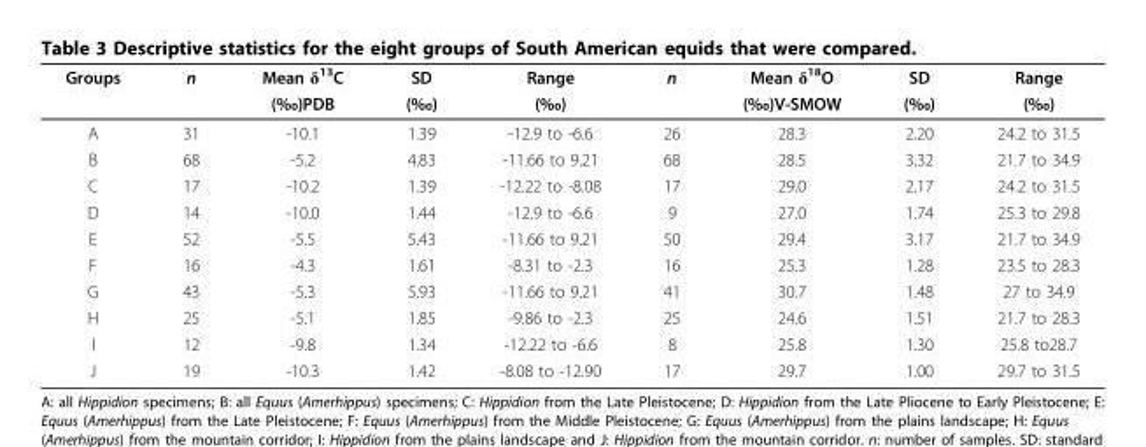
<table><thead><tr><td rowspan="2">Groups</td><td rowspan="2">n</td><td rowspan="2">Mean δ<sup>13</sup>C (‰)PDB</td><td rowspan="2">SD (‰)</td><td rowspan="2">Range (‰)</td><td rowspan="2">n</td><td rowspan="2">Mean δ<sup>18</sup>O (‰)V-SMOW</td><td rowspan="2">SD (‰)</td><td rowspan="2">Range (‰)</td></tr><tr></tr></thead><tbody><tr><td>A</td><td>31</td><td>-10.1</td><td>1.39</td><td>-12.9 to -6.6</td><td>26</td><td>28.3</td><td>2.20</td><td>24.2 to 31.5</td></tr><tr><td>B</td><td>68</td><td>-5.2</td><td>4.83</td><td>-11.66 to 9.21</td><td>68</td><td>28.5</td><td>3.32</td><td>21.7 to 34.9</td></tr><tr><td>C</td><td>17</td><td>-10.2</td><td>1.39</td><td>-12.22 to -8.08</td><td>17</td><td>29.0</td><td>2.17</td><td>24.2 to 31.5</td></tr><tr><td>D</td><td>14</td><td>-10.0</td><td>1.44</td><td>-12.9 to -6.6</td><td>9</td><td>27.0</td><td>1.74</td><td>25.3 to 29.8</td></tr><tr><td>E</td><td>52</td><td>-5.5</td><td>5.43</td><td>-11.66 to 9.21</td><td>50</td><td>29.4</td><td>3.17</td><td>21.7 to 34.9</td></tr><tr><td>F</td><td>16</td><td>-4.3</td><td>1.61</td><td>-8.31 to -2.3</td><td>16</td><td>25.3</td><td>1.28</td><td>23.5 to 28.3</td></tr><tr><td>G</td><td>43</td><td>-5.3</td><td>5.93</td><td>-11.66 to 9.21</td><td>41</td><td>30.7</td><td>1.48</td><td>27 to 34.9</td></tr><tr><td>H</td><td>25</td><td>-5.1</td><td>1.85</td><td>-9.86 to -2.3</td><td>25</td><td>24.6</td><td>1.51</td><td>21.7 to 28.3</td></tr><tr><td>I</td><td>12</td><td>-9.8</td><td>1.34</td><td>-12.22 to -6.6</td><td>8</td><td>25.8</td><td>1.30</td><td>25.8 to28.7</td></tr><tr><td>J</td><td>19</td><td>-10.3</td><td>1.42</td><td>-8.08 to -12.90</td><td>17</td><td>29.7</td><td>1.00</td><td>29.7 to 31.5</td></tr></tbody></table>